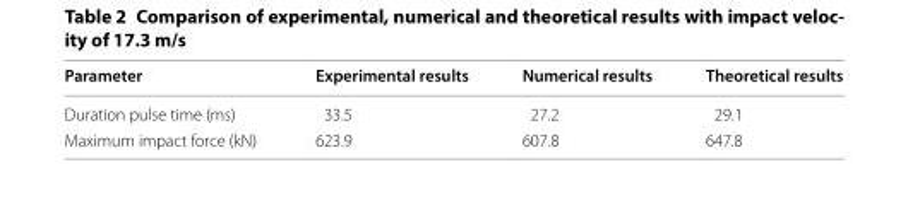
<table><thead><tr><td>Parameter</td><td>Experimental results</td><td>Numerical results</td><td>Theoretical results</td></tr></thead><tbody><tr><td>Duration pulse time (ms)</td><td>33.5</td><td>27.2</td><td>29.1</td></tr><tr><td>Maximum impact force (kN)</td><td>623.9</td><td>607.8</td><td>647.8</td></tr></tbody></table>